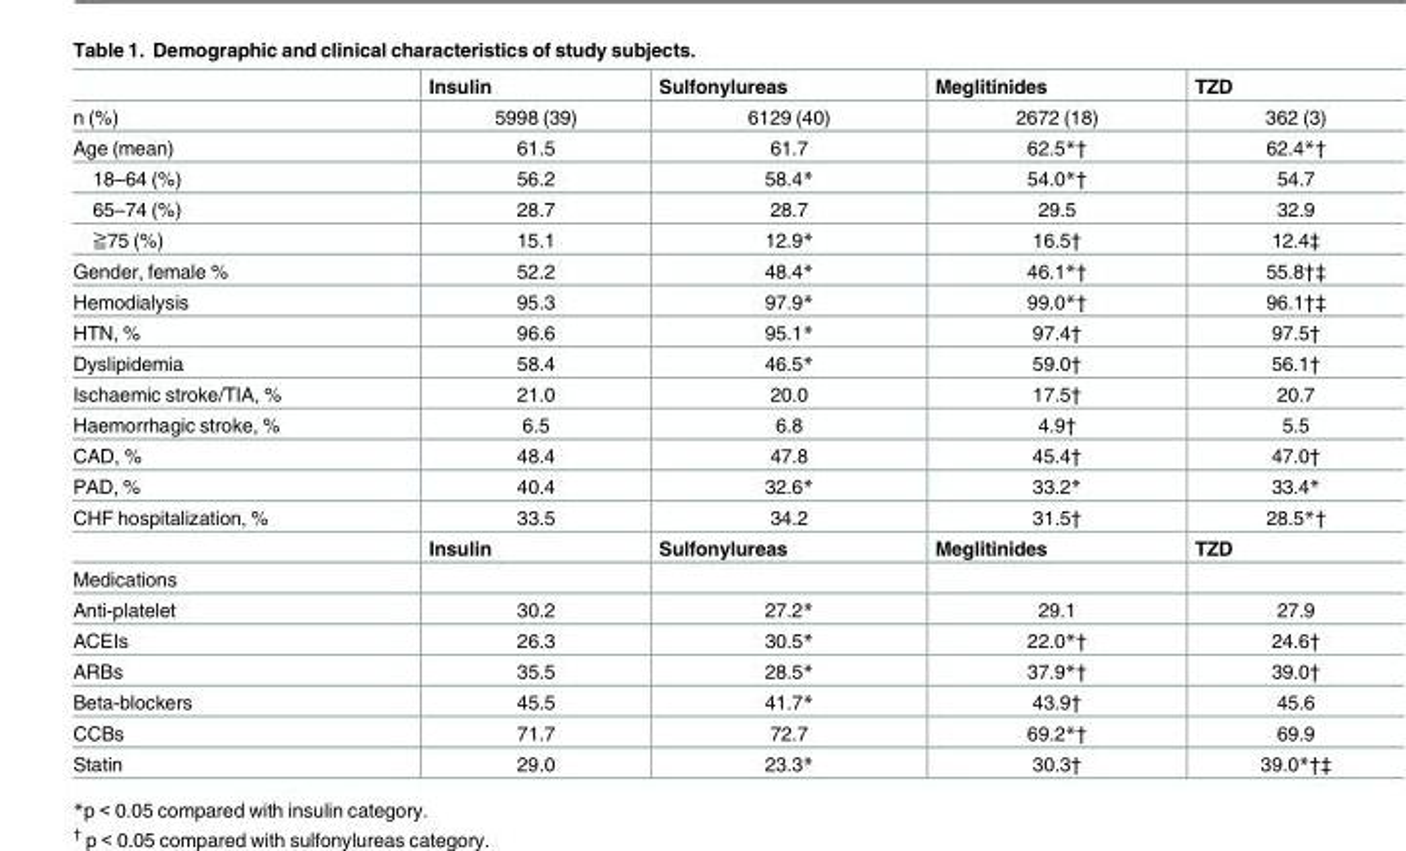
<table><thead><tr><td></td><td>Insulin</td><td>Sulfonylureas</td><td>Meglitinides</td><td>TZD</td></tr></thead><tbody><tr><td>n (%)</td><td>5998 (39)</td><td>6129 (40)</td><td>2672 (18)</td><td>362 (3)</td></tr><tr><td>Age (mean)</td><td>61.5</td><td>61.7</td><td>62.5*†</td><td>62.4*†</td></tr><tr><td>18–64 (%)</td><td>56.2</td><td>58.4*</td><td>54.0*†</td><td>54.7</td></tr><tr><td>65–74 (%)</td><td>28.7</td><td>28.7</td><td>29.5</td><td>32.9</td></tr><tr><td>≧75 (%)</td><td>15.1</td><td>12.9*</td><td>16.5†</td><td>12.4‡</td></tr><tr><td>Gender, female %</td><td>52.2</td><td>48.4*</td><td>46.1*†</td><td>55.8†‡</td></tr><tr><td>Hemodialysis</td><td>95.3</td><td>97.9*</td><td>99.0*†</td><td>96.1†‡</td></tr><tr><td>HTN, %</td><td>96.6</td><td>95.1*</td><td>97.4†</td><td>97.5†</td></tr><tr><td>Dyslipidemia</td><td>58.4</td><td>46.5*</td><td>59.0†</td><td>56.1†</td></tr><tr><td>Ischaemic stroke/TIA, %</td><td>21.0</td><td>20.0</td><td>17.5†</td><td>20.7</td></tr><tr><td>Haemorrhagic stroke, %</td><td>6.5</td><td>6.8</td><td>4.9†</td><td>5.5</td></tr><tr><td>CAD, %</td><td>48.4</td><td>47.8</td><td>45.4†</td><td>47.0†</td></tr><tr><td>PAD, %</td><td>40.4</td><td>32.6*</td><td>33.2*</td><td>33.4*</td></tr><tr><td rowspan="2">CHF hospitalization, %</td><td>33.5</td><td>34.2</td><td>31.5†</td><td>28.5*†</td></tr><tr><td>Insulin</td><td>Sulfonylureas</td><td>Meglitinides</td><td>TZD</td></tr><tr><td colspan="5">Medications</td></tr><tr><td>Anti-platelet</td><td>30.2</td><td>27.2*</td><td>29.1</td><td>27.9</td></tr><tr><td>ACEIs</td><td>26.3</td><td>30.5*</td><td>22.0*†</td><td>24.6†</td></tr><tr><td>ARBs</td><td>35.5</td><td>28.5*</td><td>37.9*†</td><td>39.0†</td></tr><tr><td>Beta-blockers</td><td>45.5</td><td>41.7*</td><td>43.9†</td><td>45.6</td></tr><tr><td>CCBs</td><td>71.7</td><td>72.7</td><td>69.2*†</td><td>69.9</td></tr><tr><td>Statin</td><td>29.0</td><td>23.3*</td><td>30.3†</td><td>39.0*†‡</td></tr></tbody></table>